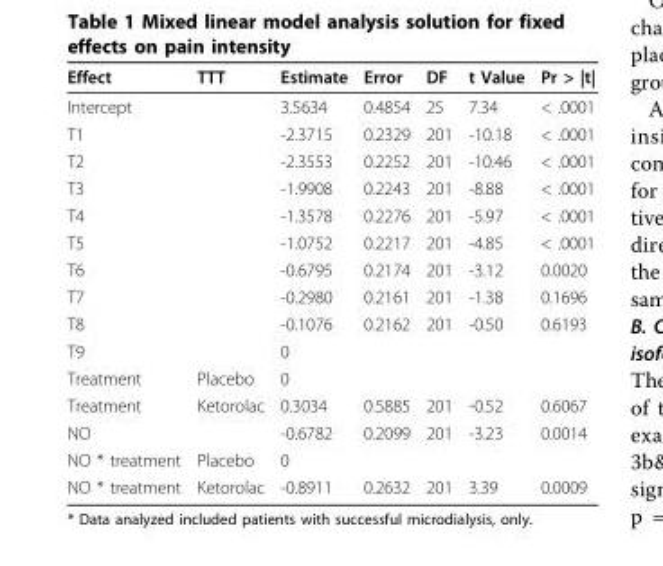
<table><thead><tr><td>Effect</td><td>TTT</td><td>Estimate</td><td>Error</td><td>DF</td><td>t Value</td><td>Pr &gt; |t|</td></tr></thead><tbody><tr><td>Intercept</td><td></td><td>3.5634</td><td>0.4854</td><td>25</td><td>7.34</td><td>&lt; .0001</td></tr><tr><td>T1</td><td></td><td>-2.3715</td><td>0.2329</td><td>201</td><td>-10.18</td><td>&lt; .0001</td></tr><tr><td>T2</td><td></td><td>-2.3553</td><td>0.2252</td><td>201</td><td>-10.46</td><td>&lt; .0001</td></tr><tr><td>T3</td><td></td><td>-1.9908</td><td>0.2243</td><td>201</td><td>-8.88</td><td>&lt; .0001</td></tr><tr><td>T4</td><td></td><td>-1.3578</td><td>0.2276</td><td>201</td><td>-5.97</td><td>&lt; .0001</td></tr><tr><td>T5</td><td></td><td>-1.0752</td><td>0.2217</td><td>201</td><td>-4.85</td><td>&lt; .0001</td></tr><tr><td>T6</td><td></td><td>-0.6795</td><td>0.2174</td><td>201</td><td>-3.12</td><td>0.0020</td></tr><tr><td>T7</td><td></td><td>-0.2980</td><td>0.2161</td><td>201</td><td>-1.38</td><td>0.1696</td></tr><tr><td>T8</td><td></td><td>-0.1076</td><td>0.2162</td><td>201</td><td>-0.50</td><td>0.6193</td></tr><tr><td>T9</td><td></td><td>0</td><td></td><td></td><td></td><td></td></tr><tr><td>Treatment</td><td>Placebo</td><td>0</td><td></td><td></td><td></td><td></td></tr><tr><td>Treatment</td><td>Ketorolac</td><td>0.3034</td><td>0.5885</td><td>201</td><td>-0.52</td><td>0.6067</td></tr><tr><td>NO</td><td></td><td>-0.6782</td><td>0.2099</td><td>201</td><td>-3.23</td><td>0.0014</td></tr><tr><td>NO * treatment</td><td>Placebo</td><td>0</td><td></td><td></td><td></td><td></td></tr><tr><td>NO * treatment</td><td>Ketorolac</td><td>-0.8911</td><td>0.2632</td><td>201</td><td>3.39</td><td>0.0009</td></tr></tbody></table>